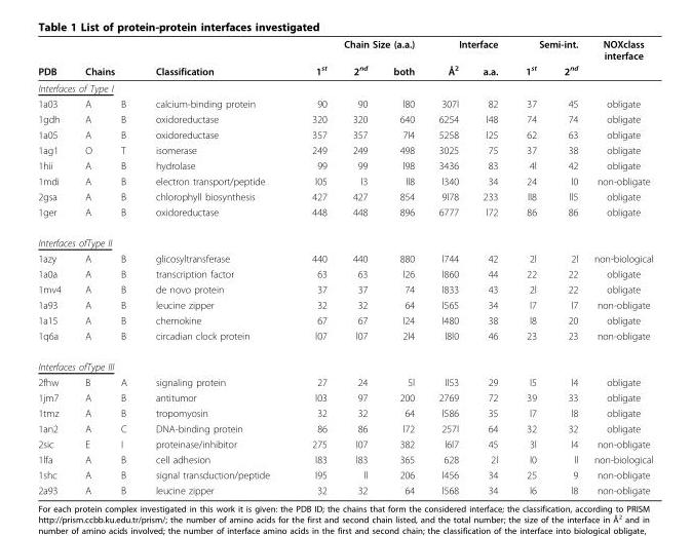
<table><thead><tr><td rowspan="2">PDB</td><td></td><td></td><td rowspan="2">Classification</td><td colspan="3">Chain Size (a.a.)</td><td colspan="2">Interface</td><td colspan="2">Semi-int.</td><td rowspan="2">NOXclass interface</td></tr><tr><td colspan="2">Chains</td><td>1<sup>st</sup></td><td>2<sup>nd</sup></td><td>both</td><td>Å<sup>2</sup></td><td>a.a.</td><td>1<sup>st</sup></td><td>2<sup>nd</sup></td></tr></thead><tbody><tr><td colspan="12">Interfaces of Type I</td></tr><tr><td>1a03</td><td>A</td><td>B</td><td>calcium-binding protein</td><td>90</td><td>90</td><td>l80</td><td>307l</td><td>82</td><td>37</td><td>45</td><td>obligate</td></tr><tr><td>1gdh</td><td>A</td><td>B</td><td>oxidoreductase</td><td>320</td><td>320</td><td>640</td><td>6254</td><td>l48</td><td>74</td><td>74</td><td>obligate</td></tr><tr><td>1a05</td><td>A</td><td>B</td><td>oxidoreductase</td><td>357</td><td>357</td><td>7l4</td><td>5258</td><td>l25</td><td>62</td><td>63</td><td>obligate</td></tr><tr><td>1ag1</td><td>O</td><td>T</td><td>isomerase</td><td>249</td><td>249</td><td>498</td><td>3025</td><td>75</td><td>37</td><td>38</td><td>obligate</td></tr><tr><td>1hii</td><td>A</td><td>B</td><td>hydrolase</td><td>99</td><td>99</td><td>l98</td><td>3436</td><td>83</td><td>4l</td><td>42</td><td>obligate</td></tr><tr><td>1mdi</td><td>A</td><td>B</td><td>electron transport/peptide</td><td>l05</td><td>l3</td><td>ll8</td><td>l340</td><td>34</td><td>24</td><td>l0</td><td>non-obligate</td></tr><tr><td>2gsa</td><td>A</td><td>B</td><td>chlorophyll biosynthesis</td><td>427</td><td>427</td><td>854</td><td>9l78</td><td>233</td><td>ll8</td><td>ll5</td><td>obligate</td></tr><tr><td>1ger</td><td>A</td><td>B</td><td>oxidoreductase</td><td>448</td><td>448</td><td>896</td><td>6777</td><td>l72</td><td>86</td><td>86</td><td>obligate</td></tr><tr><td colspan="12">Interfaces ofType II</td></tr><tr><td>1azy</td><td>A</td><td>B</td><td>glicosyltransferase</td><td>440</td><td>440</td><td>880</td><td>l744</td><td>42</td><td>2l</td><td>2l</td><td>non-biological</td></tr><tr><td>1a0a</td><td>A</td><td>B</td><td>transcription factor</td><td>63</td><td>63</td><td>l26</td><td>l860</td><td>44</td><td>22</td><td>22</td><td>obligate</td></tr><tr><td>1mv4</td><td>A</td><td>B</td><td>de novo protein</td><td>37</td><td>37</td><td>74</td><td>l833</td><td>43</td><td>2l</td><td>22</td><td>obligate</td></tr><tr><td>1a93</td><td>A</td><td>B</td><td>leucine zipper</td><td>32</td><td>32</td><td>64</td><td>l565</td><td>34</td><td>l7</td><td>l7</td><td>non-obligate</td></tr><tr><td>1a15</td><td>A</td><td>B</td><td>chemokine</td><td>67</td><td>67</td><td>l24</td><td>l480</td><td>38</td><td>l8</td><td>20</td><td>obligate</td></tr><tr><td>1q6a</td><td>A</td><td>B</td><td>circadian clock protein</td><td>l07</td><td>l07</td><td>2l4</td><td>l8l0</td><td>46</td><td>23</td><td>23</td><td>non-obligate</td></tr><tr><td colspan="12">Interfaces ofType III</td></tr><tr><td>2fhw</td><td>B</td><td>A</td><td>signaling protein</td><td>27</td><td>24</td><td>5l</td><td>ll53</td><td>29</td><td>l5</td><td>l4</td><td>obligate</td></tr><tr><td>1jm7</td><td>A</td><td>B</td><td>antitumor</td><td>l03</td><td>97</td><td>200</td><td>2769</td><td>72</td><td>39</td><td>33</td><td>obligate</td></tr><tr><td>1tmz</td><td>A</td><td>B</td><td>tropomyosin</td><td>32</td><td>32</td><td>64</td><td>l586</td><td>35</td><td>l7</td><td>l8</td><td>obligate</td></tr><tr><td>1an2</td><td>A</td><td>C</td><td>DNA-binding protein</td><td>86</td><td>86</td><td>l72</td><td>257l</td><td>64</td><td>32</td><td>32</td><td>obligate</td></tr><tr><td>2sic</td><td>E</td><td>I</td><td>proteinase/inhibitor</td><td>275</td><td>l07</td><td>382</td><td>l6l7</td><td>45</td><td>3l</td><td>l4</td><td>non-obligate</td></tr><tr><td>1lfa</td><td>A</td><td>B</td><td>cell adhesion</td><td>l83</td><td>l83</td><td>365</td><td>628</td><td>2l</td><td>l0</td><td>ll</td><td>non-biological</td></tr><tr><td>1shc</td><td>A</td><td>B</td><td>signal transduction/peptide</td><td>l95</td><td>ll</td><td>206</td><td>l456</td><td>34</td><td>25</td><td>9</td><td>non-obligate</td></tr><tr><td>2a93</td><td>A</td><td>B</td><td>leucine zipper</td><td>32</td><td>32</td><td>64</td><td>l568</td><td>34</td><td>l6</td><td>l8</td><td>non-obligate</td></tr></tbody></table>